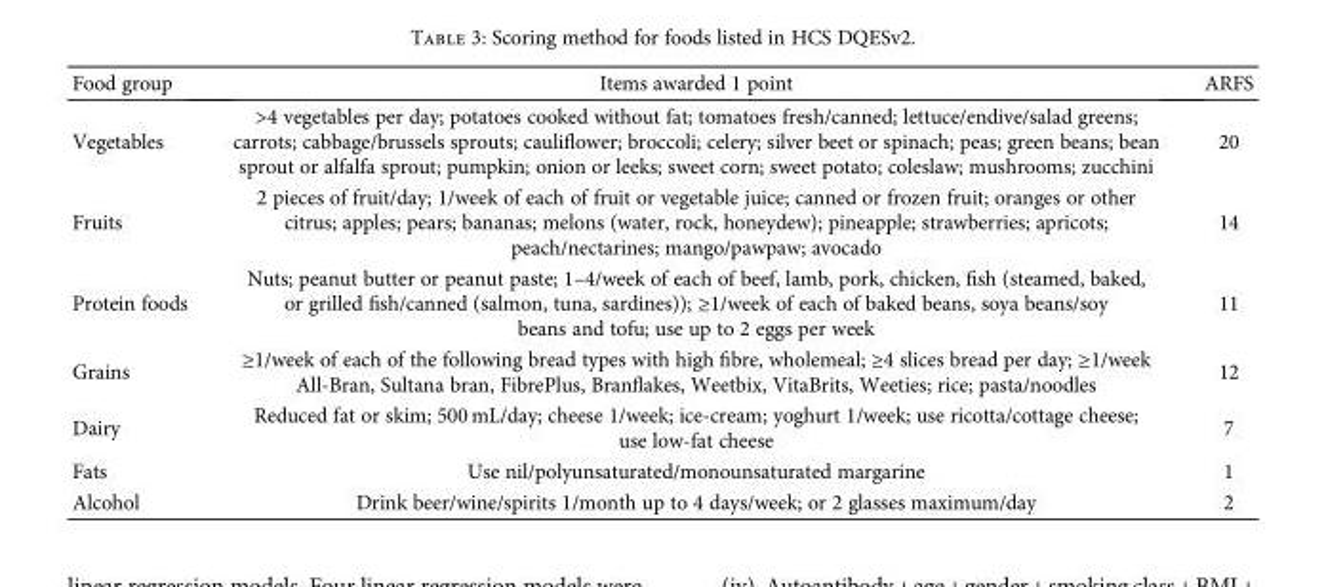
<table><thead><tr><td>Food group</td><td>Items awarded 1 point</td><td>ARFS</td></tr></thead><tbody><tr><td>Vegetables</td><td>&gt;4 vegetables per day; potatoes cooked without fat; tomatoes fresh/canned; lettuce/endive/salad greens; carrots; cabbage/brussels sprouts; cauliflower; broccoli; celery; silver beet or spinach; peas; green beans; bean sprout or alfalfa sprout; pumpkin; onion or leeks; sweet corn; sweet potato; coleslaw; mushrooms; zucchini</td><td>20</td></tr><tr><td>Fruits</td><td>2 pieces of fruit/day; 1/week of each of fruit or vegetable juice; canned or frozen fruit; oranges or other citrus; apples; pears; bananas; melons (water, rock, honeydew); pineapple; strawberries; apricots; peach/nectarines; mango/pawpaw; avocado</td><td>14</td></tr><tr><td>Protein foods</td><td>Nuts; peanut butter or peanut paste; 1–4/week of each of beef, lamb, pork, chicken, fish (steamed, baked, or grilled fish/canned (salmon, tuna, sardines)); ≥1/week of each of baked beans, soya beans/soy beans and tofu; use up to 2 eggs per week</td><td>11</td></tr><tr><td>Grains</td><td>≥1/week of each of the following bread types with high fibre, wholemeal; ≥4 slices bread per day; ≥1/week All-Bran, Sultana bran, FibrePlus, Branflakes, Weetbix, VitaBrits, Weeties; rice; pasta/noodles</td><td>12</td></tr><tr><td>Dairy</td><td>Reduced fat or skim; 500 mL/day; cheese 1/week; ice-cream; yoghurt 1/week; use ricotta/cottage cheese; use low-fat cheese</td><td>7</td></tr><tr><td>Fats</td><td>Use nil/polyunsaturated/monounsaturated margarine</td><td>1</td></tr><tr><td>Alcohol</td><td>Drink beer/wine/spirits 1/month up to 4 days/week; or 2 glasses maximum/day</td><td>2</td></tr></tbody></table>